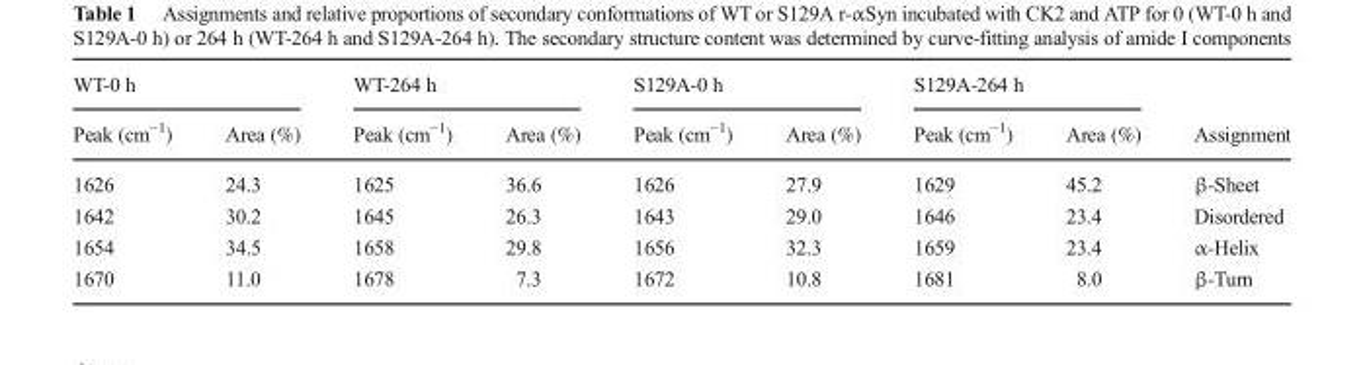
<table><thead><tr><td colspan="2">WT-0 h</td><td colspan="2">WT-264 h</td><td colspan="2">S129A-0 h</td><td colspan="2">S129A-264 h</td><td rowspan="2">Assignment</td></tr><tr><td>Peak (cm<sup>−1</sup>)</td><td>Area (%)</td><td>Peak (cm<sup>−1</sup>)</td><td>Area (%)</td><td>Peak (cm<sup>−1</sup>)</td><td>Area (%)</td><td>Peak (cm<sup>−1</sup>)</td><td>Area (%)</td></tr></thead><tbody><tr><td>1626</td><td>24.3</td><td>1625</td><td>36.6</td><td>1626</td><td>27.9</td><td>1629</td><td>45.2</td><td>β-Sheet</td></tr><tr><td>1642</td><td>30.2</td><td>1645</td><td>26.3</td><td>1643</td><td>29.0</td><td>1646</td><td>23.4</td><td>Disordered</td></tr><tr><td>1654</td><td>34.5</td><td>1658</td><td>29.8</td><td>1656</td><td>32.3</td><td>1659</td><td>23.4</td><td>α-Helix</td></tr><tr><td>1670</td><td>11.0</td><td>1678</td><td>7.3</td><td>1672</td><td>10.8</td><td>1681</td><td>8.0</td><td>β-Turn</td></tr></tbody></table>